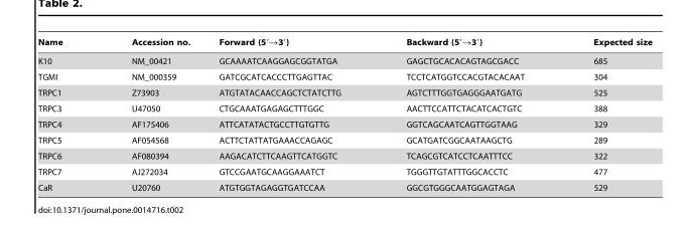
<table><thead><tr><td>Name</td><td>Accession no.</td><td>Forward (5′→3′)</td><td>Backward (5′→3′)</td><td>Expected size</td></tr></thead><tbody><tr><td>K10</td><td>NM_00421</td><td>GCAAAATCAAGGAGCGGTATGA</td><td>GAGCTGCACACAGTAGCGACC</td><td>685</td></tr><tr><td>TGMI</td><td>NM_000359</td><td>GATCGCATCACCCTTGAGTTAC</td><td>TCCTCATGGTCCACGTACACAAT</td><td>304</td></tr><tr><td>TRPC1</td><td>Z73903</td><td>ATGTATACAACCAGCTCTATCTTG</td><td>AGTCTTTGGTGAGGGAATGATG</td><td>525</td></tr><tr><td>TRPC3</td><td>U47050</td><td>CTGCAAATGAGAGCTTTGGC</td><td>AACTTCCATTCTACATCACTGTC</td><td>388</td></tr><tr><td>TRPC4</td><td>AF175406</td><td>ATTCATATACTGCCTTGTGTTG</td><td>GGTCAGCAATCAGTTGGTAAG</td><td>329</td></tr><tr><td>TRPC5</td><td>AF054568</td><td>ACTTCTATTATGAAACCAGAGC</td><td>GCATGATCGGCAATAAGCTG</td><td>289</td></tr><tr><td>TRPC6</td><td>AF080394</td><td>AAGACATCTTCAAGTTCATGGTC</td><td>TCAGCGTCATCCTCAATTTCC</td><td>322</td></tr><tr><td>TRPC7</td><td>AJ272034</td><td>GTCCGAATGCAAGGAAATCT</td><td>TGGGTTGTATTTGGCACCTC</td><td>477</td></tr><tr><td>CaR</td><td>U20760</td><td>ATGTGGTAGAGGTGATCCAA</td><td>GGCGTGGGCAATGGAGTAGA</td><td>529</td></tr></tbody></table>